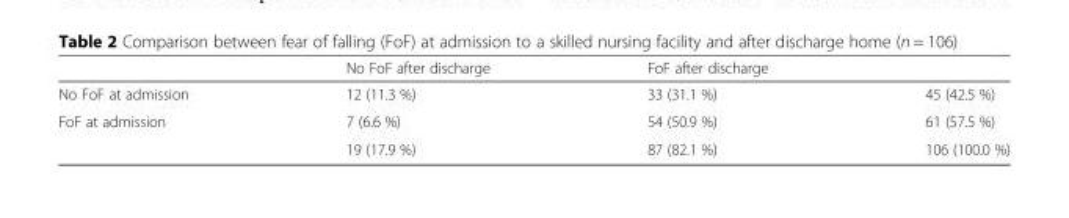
<table><thead><tr><td></td><td>No FoF after discharge</td><td>FoF after discharge</td><td></td></tr></thead><tbody><tr><td>No FoF at admission</td><td>12 (11.3 %)</td><td>33 (31.1 %)</td><td>45 (42.5 %)</td></tr><tr><td rowspan="2">FoF at admission</td><td>7 (6.6 %)</td><td>54 (50.9 %)</td><td>61 (57.5 %)</td></tr><tr><td>19 (17.9 %)</td><td>87 (82.1 %)</td><td>106 (100.0 %)</td></tr></tbody></table>